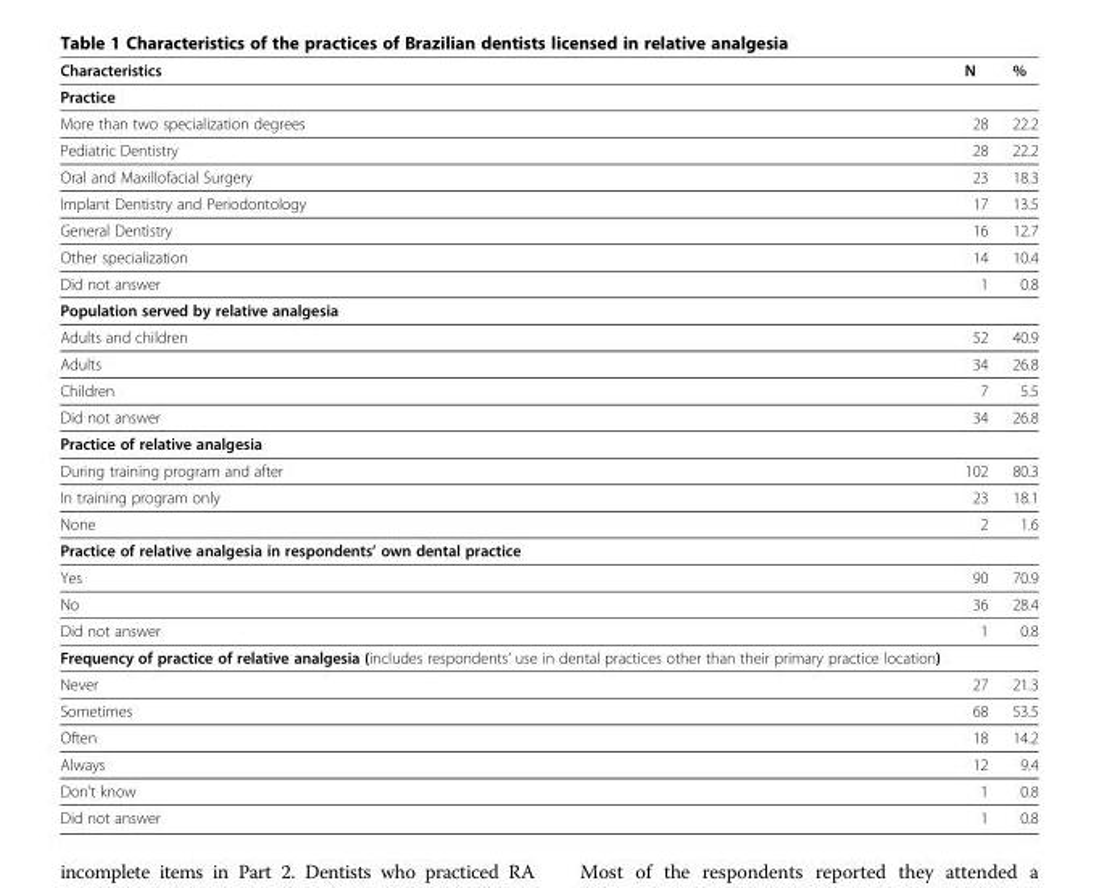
<table><thead><tr><td>Characteristics</td><td>N</td><td>%</td></tr></thead><tbody><tr><td colspan="3">Practice</td></tr><tr><td>More than two specialization degrees</td><td>28</td><td>22.2</td></tr><tr><td>Pediatric Dentistry</td><td>28</td><td>22.2</td></tr><tr><td>Oral and Maxillofacial Surgery</td><td>23</td><td>18.3</td></tr><tr><td>Implant Dentistry and Periodontology</td><td>17</td><td>13.5</td></tr><tr><td>General Dentistry</td><td>16</td><td>12.7</td></tr><tr><td>Other specialization</td><td>14</td><td>10.4</td></tr><tr><td>Did not answer</td><td>1</td><td>0.8</td></tr><tr><td colspan="3">Population served by relative analgesia</td></tr><tr><td>Adults and children</td><td>52</td><td>40.9</td></tr><tr><td>Adults</td><td>34</td><td>26.8</td></tr><tr><td>Children</td><td>7</td><td>5.5</td></tr><tr><td>Did not answer</td><td>34</td><td>26.8</td></tr><tr><td colspan="3">Practice of relative analgesia</td></tr><tr><td>During training program and after</td><td>102</td><td>80.3</td></tr><tr><td>In training program only</td><td>23</td><td>18.1</td></tr><tr><td>None</td><td>2</td><td>1.6</td></tr><tr><td colspan="3">Practice of relative analgesia in respondents’ own dental practice</td></tr><tr><td>Yes</td><td>90</td><td>70.9</td></tr><tr><td>No</td><td>36</td><td>28.4</td></tr><tr><td>Did not answer</td><td>1</td><td>0.8</td></tr><tr><td colspan="3">Frequency of practice of relative analgesia (includes respondents’ use in dental practices other than their primary practice location)</td></tr><tr><td>Never</td><td>27</td><td>21.3</td></tr><tr><td>Sometimes</td><td>68</td><td>53.5</td></tr><tr><td>Often</td><td>18</td><td>14.2</td></tr><tr><td>Always</td><td>12</td><td>9.4</td></tr><tr><td>Don’t know</td><td>1</td><td>0.8</td></tr><tr><td>Did not answer</td><td>1</td><td>0.8</td></tr></tbody></table>